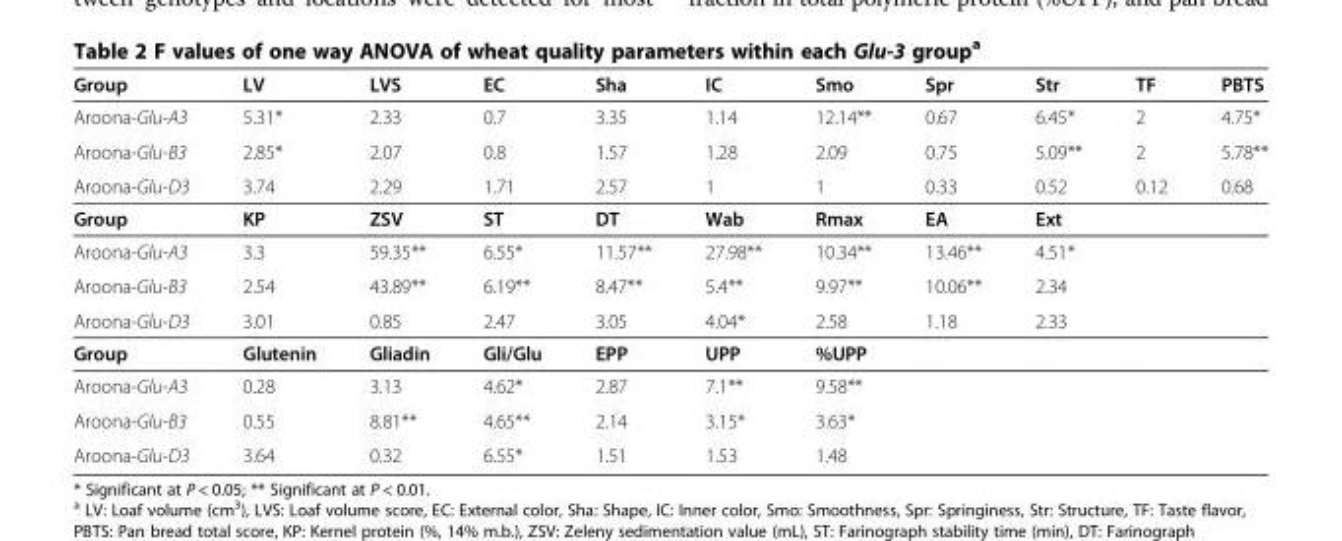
<table><thead><tr><td>Group</td><td>LV</td><td>LVS</td><td>EC</td><td>Sha</td><td>IC</td><td>Smo</td><td>Spr</td><td>Str</td><td>TF</td><td>PBTS</td></tr></thead><tbody><tr><td>Aroona-Glu-A3</td><td>5.31*</td><td>2.33</td><td>0.7</td><td>3.35</td><td>1.14</td><td>12.14**</td><td>0.67</td><td>6.45*</td><td>2</td><td>4.75*</td></tr><tr><td>Aroona-Glu-B3</td><td>2.85*</td><td>2.07</td><td>0.8</td><td>1.57</td><td>1.28</td><td>2.09</td><td>0.75</td><td>5.09**</td><td>2</td><td>5.78**</td></tr><tr><td>Aroona-Glu-D3</td><td>3.74</td><td>2.29</td><td>1.71</td><td>2.57</td><td>1</td><td>1</td><td>0.33</td><td>0.52</td><td>0.12</td><td>0.68</td></tr><tr><td>Group</td><td>KP</td><td>ZSV</td><td>ST</td><td>DT</td><td>Wab</td><td>Rmax</td><td>EA</td><td>Ext</td><td></td><td></td></tr><tr><td>Aroona-Glu-A3</td><td>3.3</td><td>59.35**</td><td>6.55*</td><td>11.57**</td><td>27.98**</td><td>10.34**</td><td>13.46**</td><td>4.51*</td><td></td><td></td></tr><tr><td>Aroona-Glu-B3</td><td>2.54</td><td>43.89**</td><td>6.19**</td><td>8.47**</td><td>5.4**</td><td>9.97**</td><td>10.06**</td><td>2.34</td><td></td><td></td></tr><tr><td>Aroona-Glu-D3</td><td>3.01</td><td>0.85</td><td>2.47</td><td>3.05</td><td>4.04*</td><td>2.58</td><td>1.18</td><td>2.33</td><td></td><td></td></tr><tr><td>Group</td><td>Glutenin</td><td>Gliadin</td><td>Gli/Glu</td><td>EPP</td><td>UPP</td><td>%UPP</td><td></td><td></td><td></td><td></td></tr><tr><td>Aroona-Glu-A3</td><td>0.28</td><td>3.13</td><td>4.62*</td><td>2.87</td><td>7.1**</td><td>9.58**</td><td></td><td></td><td></td><td></td></tr><tr><td>Aroona-Glu-B3</td><td>0.55</td><td>8.81**</td><td>4.65**</td><td>2.14</td><td>3.15*</td><td>3.63*</td><td></td><td></td><td></td><td></td></tr><tr><td>Aroona-Glu-D3</td><td>3.64</td><td>0.32</td><td>6.55*</td><td>1.51</td><td>1.53</td><td>1.48</td><td></td><td></td><td></td><td></td></tr></tbody></table>